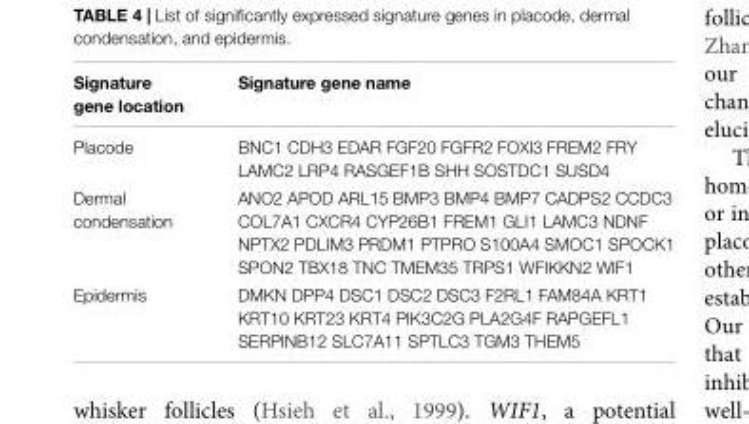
<table><thead><tr><td>Signature gene location</td><td>Signature gene name</td></tr></thead><tbody><tr><td>Placode</td><td>BNC1 CDH3 EDAR FGF20 FGFR2 FOXI3 FREM2 FRY LAMC2 LRP4 RASGEF1B SHH SOSTDC1 SUSD4</td></tr><tr><td>Dermal condensation</td><td>ANO2 APOD ARL15 BMP3 BMP4 BMP7 CADPS2 CCDC3 COL7A1 CXCR4 CYP26B1 FREM1 GLI1 LAMC3 NDNF NPTX2 PDLIM3 PRDM1 PTPRO S100A4 SMOC1 SPOCK1 SPON2 TBX18 TNC TMEM35 TRPS1 WFIKKN2 WIF1</td></tr><tr><td>Epidermis</td><td>DMKN DPP4 DSC1 DSC2 DSC3 F2RL1 FAM84A KRT1 KRT10 KRT23 KRT4 PIK3C2G PLA2G4F RAPGEFL1 SERPINB12 SLC7A11 SPTLC3 TGM3 THEM5</td></tr></tbody></table>